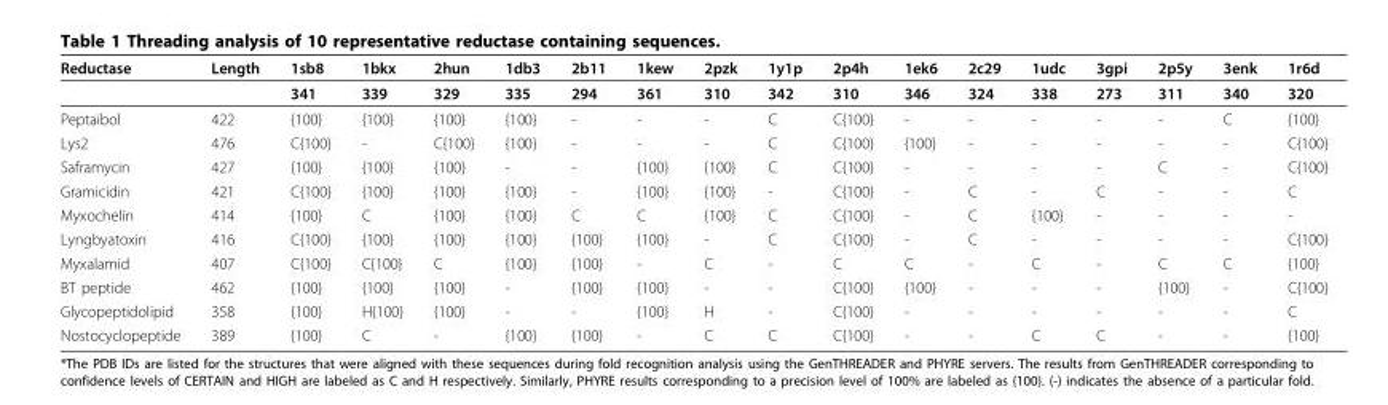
<table><thead><tr><td>Reductase</td><td>Length</td><td>1sb8</td><td>1bkx</td><td>2hun</td><td>1db3</td><td>2b11</td><td>1kew</td><td>2pzk</td><td>1y1p</td><td>2p4h</td><td>1ek6</td><td>2c29</td><td>1udc</td><td>3gpi</td><td>2p5y</td><td>3enk</td><td>1r6d</td></tr></thead><tbody><tr><td></td><td></td><td>341</td><td>339</td><td>329</td><td>335</td><td>294</td><td>361</td><td>310</td><td>342</td><td>310</td><td>346</td><td>324</td><td>338</td><td>273</td><td>311</td><td>340</td><td>320</td></tr><tr><td>Peptaibol</td><td>422</td><td>{100}</td><td>{100}</td><td>{100}</td><td>{100}</td><td>-</td><td>-</td><td>-</td><td>C</td><td>C{100}</td><td>-</td><td>-</td><td>-</td><td>-</td><td>-</td><td>C</td><td>{100}</td></tr><tr><td>Lys2</td><td>476</td><td>C{100}</td><td>-</td><td>C{100}</td><td>{100}</td><td>-</td><td>-</td><td>-</td><td>C</td><td>C{100}</td><td>{100}</td><td>-</td><td>-</td><td>-</td><td>-</td><td>-</td><td>C{100}</td></tr><tr><td>Saframycin</td><td>427</td><td>{100}</td><td>{100}</td><td>{100}</td><td>-</td><td>-</td><td>{100}</td><td>{100}</td><td>C</td><td>C{100}</td><td>-</td><td>-</td><td>-</td><td>-</td><td>C</td><td>-</td><td>C{100}</td></tr><tr><td>Gramicidin</td><td>421</td><td>C{100}</td><td>{100}</td><td>{100}</td><td>{100}</td><td>-</td><td>{100}</td><td>{100}</td><td>-</td><td>C{100}</td><td>-</td><td>C</td><td>-</td><td>C</td><td>-</td><td>-</td><td>C</td></tr><tr><td>Myxochelin</td><td>414</td><td>{100}</td><td>C</td><td>{100}</td><td>{100}</td><td>C</td><td>C</td><td>{100}</td><td>C</td><td>C{100}</td><td>-</td><td>C</td><td>{100}</td><td>-</td><td>-</td><td>-</td><td>-</td></tr><tr><td>Lyngbyatoxin</td><td>416</td><td>C{100}</td><td>{100}</td><td>{100}</td><td>{100}</td><td>{100}</td><td>{100}</td><td>-</td><td>C</td><td>C{100}</td><td>-</td><td>C</td><td>-</td><td>-</td><td>-</td><td>-</td><td>C{100}</td></tr><tr><td>Myxalamid</td><td>407</td><td>C{100}</td><td>C{100}</td><td>C</td><td>{100}</td><td>{100}</td><td>-</td><td>C</td><td>-</td><td>C</td><td>C</td><td>-</td><td>C</td><td>-</td><td>C</td><td>C</td><td>{100}</td></tr><tr><td>BT peptide</td><td>462</td><td>{100}</td><td>{100}</td><td>{100}</td><td>-</td><td>{100}</td><td>{100}</td><td>-</td><td>-</td><td>C{100}</td><td>{100}</td><td>-</td><td>-</td><td>-</td><td>{100}</td><td>-</td><td>C{100}</td></tr><tr><td>Glycopeptidolipid</td><td>358</td><td>{100}</td><td>H{100}</td><td>{100}</td><td>-</td><td>-</td><td>{100}</td><td>H</td><td>-</td><td>C{100}</td><td>-</td><td>-</td><td>-</td><td>-</td><td>-</td><td>-</td><td>C</td></tr><tr><td>Nostocyclopeptide</td><td>389</td><td>{100}</td><td>C</td><td>-</td><td>{100}</td><td>{100}</td><td>-</td><td>C</td><td>C</td><td>C{100}</td><td>-</td><td>-</td><td>C</td><td>C</td><td>-</td><td>-</td><td>{100}</td></tr></tbody></table>